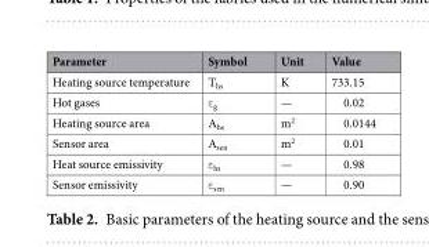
<table><thead><tr><td>Parameter</td><td>Symbol</td><td>Unit</td><td>Value</td></tr></thead><tbody><tr><td>Heating source temperature</td><td>T<sub>hs</sub></td><td>K</td><td>733.15</td></tr><tr><td>Hot gases</td><td>ε<sub>g</sub></td><td>—</td><td>0.02</td></tr><tr><td>Heating source area</td><td>A<sub>hs</sub></td><td>m<sup>2</sup></td><td>0.0144</td></tr><tr><td>Sensor area</td><td>A<sub>sen</sub></td><td>m<sup>2</sup></td><td>0.01</td></tr><tr><td>Heat source emissivity</td><td>ε<sub>hs</sub></td><td>—</td><td>0.98</td></tr><tr><td>Sensor emissivity</td><td>ε<sub>sen</sub></td><td>—</td><td>0.90</td></tr></tbody></table>